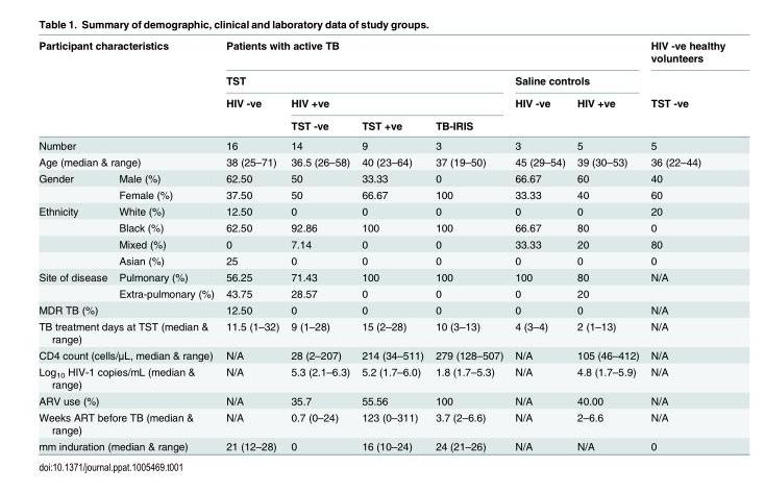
<table><thead><tr><td colspan="2">Participant characteristics</td><td colspan="6">Patients with active TB</td><td rowspan="4">HIV -ve healthy volunteers TST -ve</td></tr><tr><td rowspan="3"></td><td rowspan="3"></td><td colspan="4">TST</td><td colspan="2">Saline controls</td></tr><tr><td rowspan="2">HIV -ve</td><td colspan="3">HIV +ve</td><td rowspan="2">HIV -ve</td><td rowspan="2">HIV +ve</td></tr><tr><td>TST -ve</td><td>TST +ve</td><td>TB-IRIS</td></tr></thead><tbody><tr><td colspan="2">Number</td><td>16</td><td>14</td><td>9</td><td>3</td><td>3</td><td>5</td><td>5</td></tr><tr><td colspan="2">Age (median &amp; range)</td><td>38 (25–71)</td><td>36.5 (26–58)</td><td>40 (23–64)</td><td>37 (19–50)</td><td>45 (29–54)</td><td>39 (30–53)</td><td>36 (22–44)</td></tr><tr><td rowspan="2">Gender</td><td>Male (%)</td><td>62.50</td><td>50</td><td>33.33</td><td>0</td><td>66.67</td><td>60</td><td>40</td></tr><tr><td>Female (%)</td><td>37.50</td><td>50</td><td>66.67</td><td>100</td><td>33.33</td><td>40</td><td>60</td></tr><tr><td rowspan="4">Ethnicity</td><td>White (%)</td><td>12.50</td><td>0</td><td>0</td><td>0</td><td>0</td><td>0</td><td>20</td></tr><tr><td>Black (%)</td><td>62.50</td><td>92.86</td><td>100</td><td>100</td><td>66.67</td><td>80</td><td>0</td></tr><tr><td>Mixed (%)</td><td>0</td><td>7.14</td><td>0</td><td>0</td><td>33.33</td><td>20</td><td>80</td></tr><tr><td>Asian (%)</td><td>25</td><td>0</td><td>0</td><td>0</td><td>0</td><td>0</td><td>0</td></tr><tr><td rowspan="2">Site of disease</td><td>Pulmonary (%)</td><td>56.25</td><td>71.43</td><td>100</td><td>100</td><td>100</td><td>80</td><td>N/A</td></tr><tr><td>Extra-pulmonary (%)</td><td>43.75</td><td>28.57</td><td>0</td><td>0</td><td>0</td><td>20</td><td></td></tr><tr><td colspan="2">MDR TB (%)</td><td>12.50</td><td>0</td><td>0</td><td>0</td><td>0</td><td>0</td><td>N/A</td></tr><tr><td colspan="2">TB treatment days at TST (median &amp; range)</td><td>11.5 (1–32)</td><td>9 (1–28)</td><td>15 (2–28)</td><td>10 (3–13)</td><td>4 (3–4)</td><td>2 (1–13)</td><td>N/A</td></tr><tr><td colspan="2">CD4 count (cells/μL, median &amp; range)</td><td>N/A</td><td>28 (2–207)</td><td>214 (34–511)</td><td>279 (128–507)</td><td>N/A</td><td>105 (46–412)</td><td>N/A</td></tr><tr><td colspan="2">Log<sub>10</sub> HIV-1 copies/mL (median &amp; range)</td><td>N/A</td><td>5.3 (2.1–6.3)</td><td>5.2 (1.7–6.0)</td><td>1.8 (1.7–5.3)</td><td>N/A</td><td>4.8 (1.7–5.9)</td><td>N/A</td></tr><tr><td colspan="2">ARV use (%)</td><td>N/A</td><td>35.7</td><td>55.56</td><td>100</td><td>N/A</td><td>40.00</td><td>N/A</td></tr><tr><td colspan="2">Weeks ART before TB (median &amp; range)</td><td>N/A</td><td>0.7 (0–24)</td><td>123 (0–311)</td><td>3.7 (2–6.6)</td><td>N/A</td><td>2–6.6</td><td>N/A</td></tr><tr><td colspan="2">mm induration (median &amp; range)</td><td>21 (12–28)</td><td>0</td><td>16 (10–24)</td><td>24 (21–26)</td><td>N/A</td><td>N/A</td><td>0</td></tr></tbody></table>